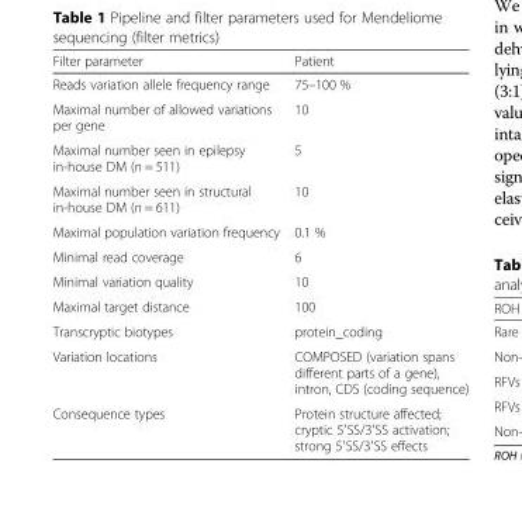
<table><thead><tr><td>Filter parameter</td><td>Patient</td></tr></thead><tbody><tr><td>Reads variation allele frequency range</td><td>75–100 %</td></tr><tr><td>Maximal number of allowed variations per gene</td><td>10</td></tr><tr><td>Maximal number seen in epilepsy in-house DM (n = 511)</td><td>5</td></tr><tr><td>Maximal number seen in structural in-house DM (n = 611)</td><td>10</td></tr><tr><td>Maximal population variation frequency</td><td>0.1 %</td></tr><tr><td>Minimal read coverage</td><td>6</td></tr><tr><td>Minimal variation quality</td><td>10</td></tr><tr><td>Maximal target distance</td><td>100</td></tr><tr><td>Transcryptic biotypes</td><td>protein_coding</td></tr><tr><td>Variation locations</td><td>COMPOSED (variation spans different parts of a gene), intron, CDS (coding sequence)</td></tr><tr><td>Consequence types</td><td>Protein structure affected; cryptic 5′SS/3′SS activation; strong 5′SS/3′SS effects</td></tr></tbody></table>